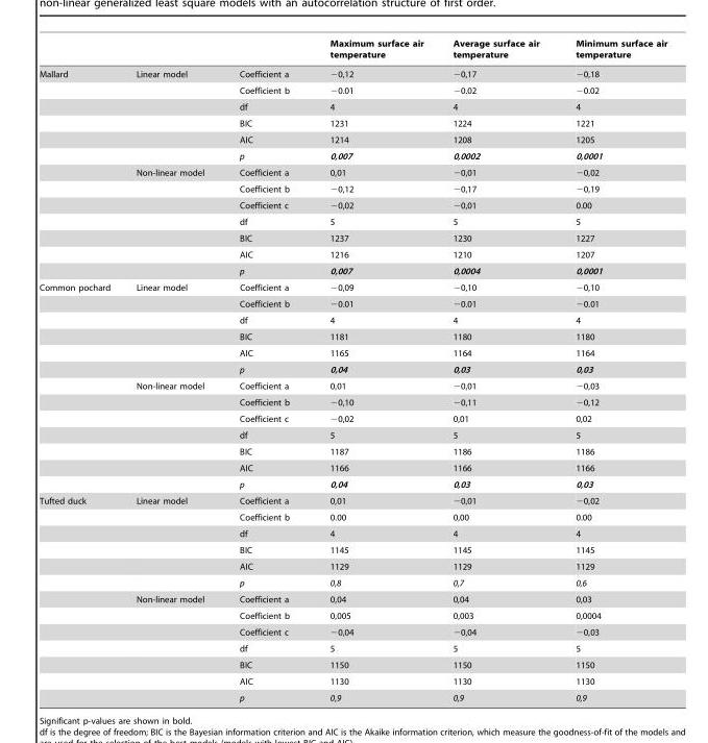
<table><thead><tr><td></td><td></td><td></td><td>Maximum surface air temperature</td><td>Average surface air temperature</td><td>Minimum surface air temperature</td></tr></thead><tbody><tr><td rowspan="13">Mallard</td><td>Linear model</td><td>Coefficient a</td><td>−0,12</td><td>−0,17</td><td>−0,18</td></tr><tr><td></td><td>Coefficient b</td><td>−0.01</td><td>−0.02</td><td>−0.02</td></tr><tr><td></td><td>df</td><td>4</td><td>4</td><td>4</td></tr><tr><td></td><td>BIC</td><td>1231</td><td>1224</td><td>1221</td></tr><tr><td></td><td>AIC</td><td>1214</td><td>1208</td><td>1205</td></tr><tr><td></td><td>p</td><td>0,007</td><td>0,0002</td><td>0,0001</td></tr><tr><td>Non-linear model</td><td>Coefficient a</td><td>0,01</td><td>−0,01</td><td>−0,02</td></tr><tr><td></td><td>Coefficient b</td><td>−0,12</td><td>−0,17</td><td>−0,19</td></tr><tr><td></td><td>Coefficient c</td><td>−0,02</td><td>−0,01</td><td>0.00</td></tr><tr><td></td><td>df</td><td>5</td><td>5</td><td>5</td></tr><tr><td></td><td>BIC</td><td>1237</td><td>1230</td><td>1227</td></tr><tr><td></td><td>AIC</td><td>1216</td><td>1210</td><td>1207</td></tr><tr><td></td><td>p</td><td>0,007</td><td>0,0004</td><td>0,0001</td></tr><tr><td rowspan="13">Common pochard</td><td>Linear model</td><td>Coefficient a</td><td>−0,09</td><td>−0,10</td><td>−0,10</td></tr><tr><td></td><td>Coefficient b</td><td>−0.01</td><td>−0.01</td><td>−0.01</td></tr><tr><td></td><td>df</td><td>4</td><td>4</td><td>4</td></tr><tr><td></td><td>BIC</td><td>1181</td><td>1180</td><td>1180</td></tr><tr><td></td><td>AIC</td><td>1165</td><td>1164</td><td>1164</td></tr><tr><td></td><td>p</td><td>0,04</td><td>0,03</td><td>0,03</td></tr><tr><td>Non-linear model</td><td>Coefficient a</td><td>0,01</td><td>−0,01</td><td>−0,03</td></tr><tr><td></td><td>Coefficient b</td><td>−0,10</td><td>−0,11</td><td>−0,12</td></tr><tr><td></td><td>Coefficient c</td><td>−0,02</td><td>0,01</td><td>0,02</td></tr><tr><td></td><td>df</td><td>5</td><td>5</td><td>5</td></tr><tr><td></td><td>BIC</td><td>1187</td><td>1186</td><td>1186</td></tr><tr><td></td><td>AIC</td><td>1166</td><td>1166</td><td>1166</td></tr><tr><td></td><td>p</td><td>0,04</td><td>0,03</td><td>0,03</td></tr><tr><td rowspan="13">Tufted duck</td><td>Linear model</td><td>Coefficient a</td><td>0,01</td><td>−0,01</td><td>−0,02</td></tr><tr><td></td><td>Coefficient b</td><td>0.00</td><td>0,00</td><td>0.00</td></tr><tr><td></td><td>df</td><td>4</td><td>4</td><td>4</td></tr><tr><td></td><td>BIC</td><td>1145</td><td>1145</td><td>1145</td></tr><tr><td></td><td>AIC</td><td>1129</td><td>1129</td><td>1129</td></tr><tr><td></td><td>p</td><td>0,8</td><td>0,7</td><td>0,6</td></tr><tr><td>Non-linear model</td><td>Coefficient a</td><td>0,04</td><td>0,04</td><td>0,03</td></tr><tr><td></td><td>Coefficient b</td><td>0,005</td><td>0,003</td><td>0,0004</td></tr><tr><td></td><td>Coefficient c</td><td>−0,04</td><td>−0,04</td><td>−0,03</td></tr><tr><td></td><td>df</td><td>5</td><td>5</td><td>5</td></tr><tr><td></td><td>BIC</td><td>1150</td><td>1150</td><td>1150</td></tr><tr><td></td><td>AIC</td><td>1130</td><td>1130</td><td>1130</td></tr><tr><td></td><td>p</td><td>0,9</td><td>0,9</td><td>0,9</td></tr></tbody></table>